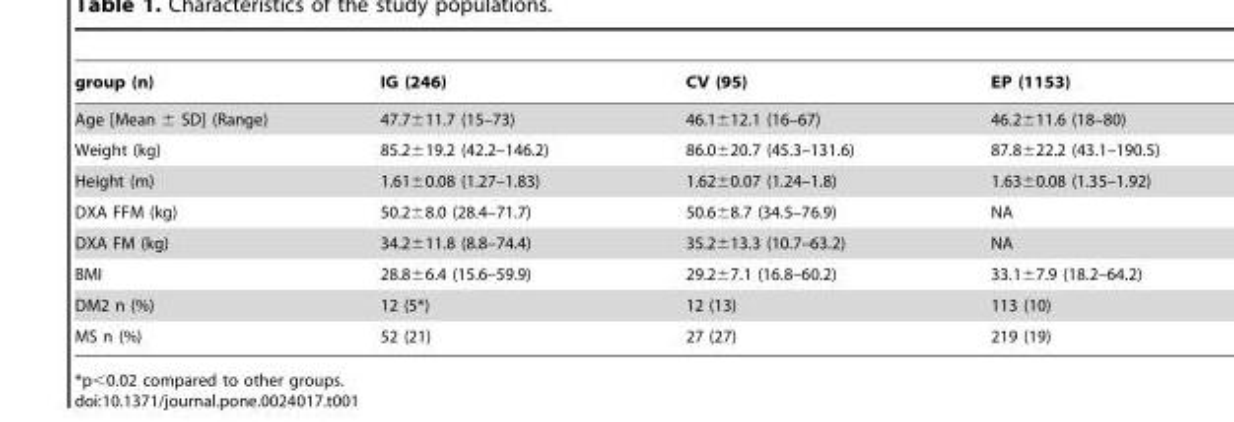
<table><thead><tr><td>group (n)</td><td>IG (246)</td><td>CV (95)</td><td>EP (1153)</td></tr></thead><tbody><tr><td>Age [Mean ± SD] (Range)</td><td>47.7±11.7 (15–73)</td><td>46.1±12.1 (16–67)</td><td>46.2±11.6 (18–80)</td></tr><tr><td>Weight (kg)</td><td>85.2±19.2 (42.2–146.2)</td><td>86.0±20.7 (45.3–131.6)</td><td>87.8±22.2 (43.1–190.5)</td></tr><tr><td>Height (m)</td><td>1.61±0.08 (1.27–1.83)</td><td>1.62±0.07 (1.24–1.8)</td><td>1.63±0.08 (1.35–1.92)</td></tr><tr><td>DXA FFM (kg)</td><td>50.2±8.0 (28.4–71.7)</td><td>50.6±8.7 (34.5–76.9)</td><td>NA</td></tr><tr><td>DXA FM (kg)</td><td>34.2±11.8 (8.8–74.4)</td><td>35.2±13.3 (10.7–63.2)</td><td>NA</td></tr><tr><td>BMI</td><td>28.8±6.4 (15.6–59.9)</td><td>29.2±7.1 (16.8–60.2)</td><td>33.1±7.9 (18.2–64.2)</td></tr><tr><td>DM2 n (%)</td><td>12 (5*)</td><td>12 (13)</td><td>113 (10)</td></tr><tr><td>MS n (%)</td><td>52 (21)</td><td>27 (27)</td><td>219 (19)</td></tr></tbody></table>